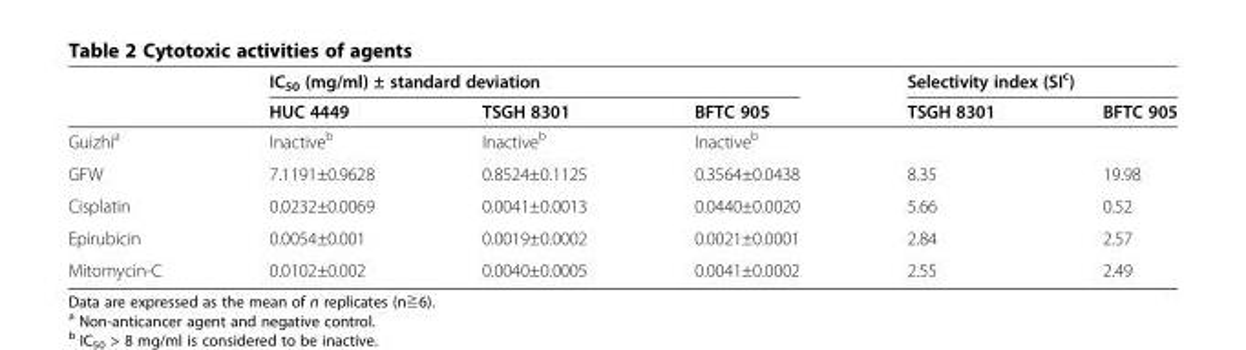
<table><thead><tr><td rowspan="2"></td><td colspan="3">IC<sub>50</sub> (mg/ml) ± standard deviation</td><td colspan="2">Selectivity index (SI<sup>c</sup>)</td></tr><tr><td>HUC 4449</td><td>TSGH 8301</td><td>BFTC 905</td><td>TSGH 8301</td><td>BFTC 905</td></tr></thead><tbody><tr><td>Guizhi<sup>a</sup></td><td>Inactive<sup>b</sup></td><td>Inactive<sup>b</sup></td><td>Inactive<sup>b</sup></td><td></td><td></td></tr><tr><td>GFW</td><td>7.1191±0.9628</td><td>0.8524±0.1125</td><td>0.3564±0.0438</td><td>8.35</td><td>19.98</td></tr><tr><td>Cisplatin</td><td>0.0232±0.0069</td><td>0.0041±0.0013</td><td>0.0440±0.0020</td><td>5.66</td><td>0.52</td></tr><tr><td>Epirubicin</td><td>0.0054±0.001</td><td>0.0019±0.0002</td><td>0.0021±0.0001</td><td>2.84</td><td>2.57</td></tr><tr><td>Mitomycin-C</td><td>0.0102±0.002</td><td>0.0040±0.0005</td><td>0.0041±0.0002</td><td>2.55</td><td>2.49</td></tr></tbody></table>